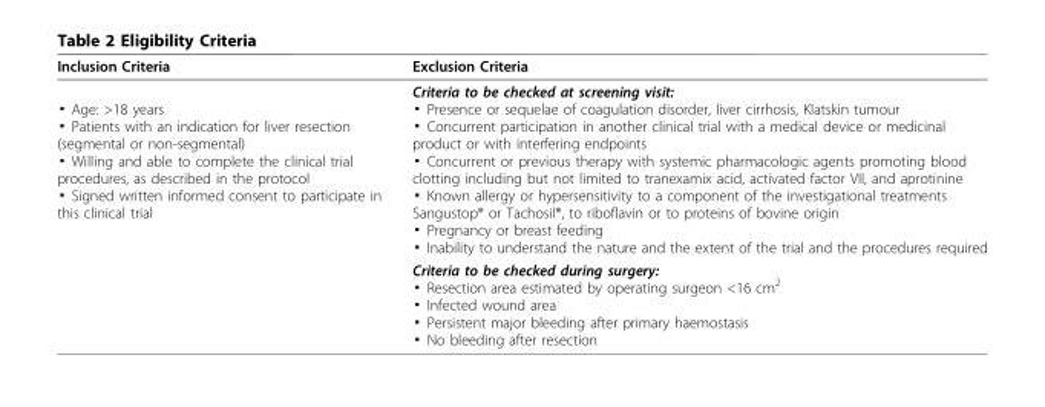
<table><thead><tr><td>Inclusion Criteria</td><td>Exclusion Criteria</td></tr></thead><tbody><tr><td rowspan="2">▪ Age: &gt;18 years ▪ Patients with an indication for liver resection (segmental or non-segmental) ▪ Willing and able to complete the clinical trial procedures, as described in the protocol ▪ Signed written informed consent to participate in this clinical trial</td><td>Criteria to be checked at screening visit: ▪ Presence or sequelae of coagulation disorder, liver cirrhosis, Klatskin tumour ▪ Concurrent participation in another clinical trial with a medical device or medicinal product or with interfering endpoints ▪ Concurrent or previous therapy with systemic pharmacologic agents promoting blood clotting including but not limited to tranexamix acid, activated factor VII, and aprotinine ▪ Known allergy or hypersensitivity to a component of the investigational treatments Sangustop<sup>®</sup> or Tachosil<sup>®</sup>, to riboflavin or to proteins of bovine origin ▪ Pregnancy or breast feeding ▪ Inability to understand the nature and the extent of the trial and the procedures required</td></tr><tr><td>Criteria to be checked during surgery: ▪ Resection area estimated by operating surgeon &lt;16 cm<sup>2</sup> ▪ Infected wound area ▪ Persistent major bleeding after primary haemostasis ▪ No bleeding after resection</td></tr></tbody></table>